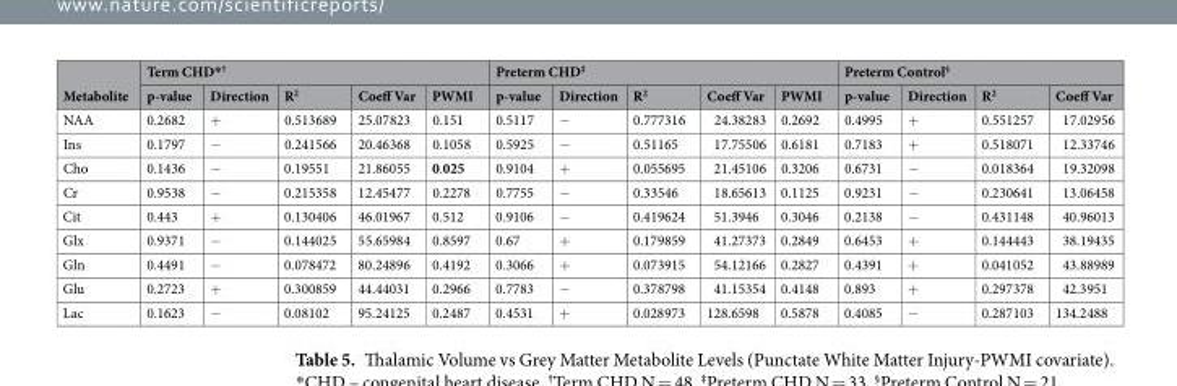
<table><thead><tr><td rowspan="2">Metabolite</td><td colspan="5">Term CHD*<sup>†</sup></td><td colspan="5">Preterm CHD<sup>‡</sup></td><td colspan="4">Preterm Control<sup>§</sup></td></tr><tr><td>p-value</td><td>Direction</td><td>R<sup>2</sup></td><td>Coeff Var</td><td>PWMI</td><td>p-value</td><td>Direction</td><td>R<sup>2</sup></td><td>Coeff Var</td><td>PWMI</td><td>p-value</td><td>Direction</td><td>R<sup>2</sup></td><td>Coeff Var</td></tr></thead><tbody><tr><td>NAA</td><td>0.2682</td><td>+</td><td>0.513689</td><td>25.07823</td><td>0.151</td><td>0.5117</td><td>−</td><td>0.777316</td><td>24.38283</td><td>0.2692</td><td>0.4995</td><td>+</td><td>0.551257</td><td>17.02956</td></tr><tr><td>Ins</td><td>0.1797</td><td>−</td><td>0.241566</td><td>20.46368</td><td>0.1058</td><td>0.5925</td><td>−</td><td>0.51165</td><td>17.75506</td><td>0.6181</td><td>0.7183</td><td>+</td><td>0.518071</td><td>12.33746</td></tr><tr><td>Cho</td><td>0.1436</td><td>−</td><td>0.19551</td><td>21.86055</td><td>0.025</td><td>0.9104</td><td>+</td><td>0.055695</td><td>21.45106</td><td>0.3206</td><td>0.6731</td><td>−</td><td>0.018364</td><td>19.32098</td></tr><tr><td>Cr</td><td>0.9538</td><td>−</td><td>0.215358</td><td>12.45477</td><td>0.2278</td><td>0.7755</td><td>−</td><td>0.33546</td><td>18.65613</td><td>0.1125</td><td>0.9231</td><td>−</td><td>0.230641</td><td>13.06458</td></tr><tr><td>Cit</td><td>0.443</td><td>+</td><td>0.130406</td><td>46.01967</td><td>0.512</td><td>0.9106</td><td>−</td><td>0.419624</td><td>51.3946</td><td>0.3046</td><td>0.2138</td><td>−</td><td>0.431148</td><td>40.96013</td></tr><tr><td>Glx</td><td>0.9371</td><td>−</td><td>0.144025</td><td>55.65984</td><td>0.8597</td><td>0.67</td><td>+</td><td>0.179859</td><td>41.27373</td><td>0.2849</td><td>0.6453</td><td>+</td><td>0.144443</td><td>38.19435</td></tr><tr><td>Gln</td><td>0.4491</td><td>−</td><td>0.078472</td><td>80.24896</td><td>0.4192</td><td>0.3066</td><td>+</td><td>0.073915</td><td>54.12166</td><td>0.2827</td><td>0.4391</td><td>+</td><td>0.041052</td><td>43.88989</td></tr><tr><td>Glu</td><td>0.2723</td><td>+</td><td>0.300859</td><td>44.44031</td><td>0.2966</td><td>0.7783</td><td>−</td><td>0.378798</td><td>41.15354</td><td>0.4148</td><td>0.893</td><td>+</td><td>0.297378</td><td>42.3951</td></tr><tr><td>Lac</td><td>0.1623</td><td>−</td><td>0.08102</td><td>95.24125</td><td>0.2487</td><td>0.4531</td><td>+</td><td>0.028973</td><td>128.6598</td><td>0.5878</td><td>0.4085</td><td>−</td><td>0.287103</td><td>134.2488</td></tr></tbody></table>